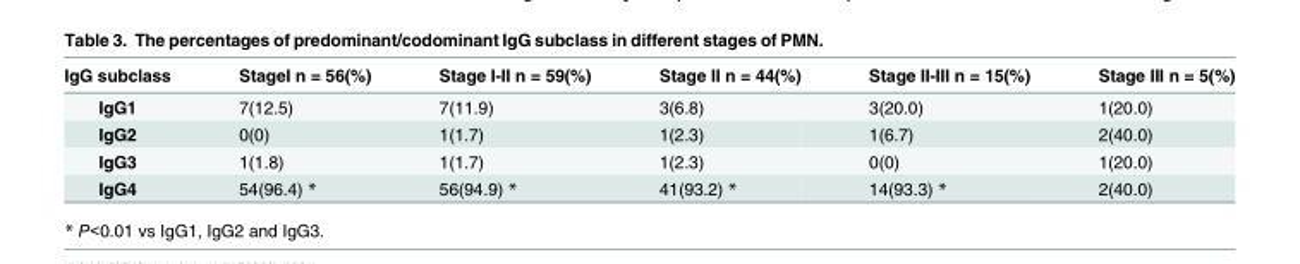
<table><thead><tr><td>IgG subclass</td><td>StageI n = 56(%)</td><td>Stage I-II n = 59(%)</td><td>Stage II n = 44(%)</td><td>Stage II-III n = 15(%)</td><td>Stage III n = 5(%)</td></tr></thead><tbody><tr><td>IgG1</td><td>7(12.5)</td><td>7(11.9)</td><td>3(6.8)</td><td>3(20.0)</td><td>1(20.0)</td></tr><tr><td>IgG2</td><td>0(0)</td><td>1(1.7)</td><td>1(2.3)</td><td>1(6.7)</td><td>2(40.0)</td></tr><tr><td>IgG3</td><td>1(1.8)</td><td>1(1.7)</td><td>1(2.3)</td><td>0(0)</td><td>1(20.0)</td></tr><tr><td>IgG4</td><td>54(96.4) *</td><td>56(94.9) *</td><td>41(93.2) *</td><td>14(93.3) *</td><td>2(40.0)</td></tr></tbody></table>